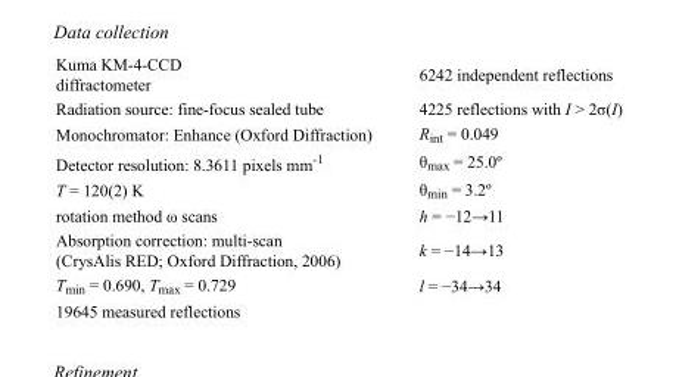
<table><tbody><tr><td>Kuma KM-4-CCD diffractometer</td><td>6242 independent reflections</td></tr><tr><td>Radiation source: fine-focus sealed tube</td><td>4225 reflections with I &gt; 2σ(I)</td></tr><tr><td>Monochromator: Enhance (Oxford Diffraction)</td><td>R<sub>int</sub> = 0.049</td></tr><tr><td>Detector resolution: 8.3611 pixels mm<sup>-1</sup></td><td>θ<sub>max</sub> = 25.0º</td></tr><tr><td>T = 120(2) K</td><td>θ<sub>min</sub> = 3.2º</td></tr><tr><td>rotation method ω scans</td><td>h = −12→11</td></tr><tr><td>Absorption correction: multi-scan (CrysAlis RED; Oxford Diffraction, 2006)</td><td>k = −14→13</td></tr><tr><td>T<sub>min</sub> = 0.690, T<sub>max</sub> = 0.729</td><td>l = −34→34</td></tr><tr><td>19645 measured reflections</td><td></td></tr></tbody></table>